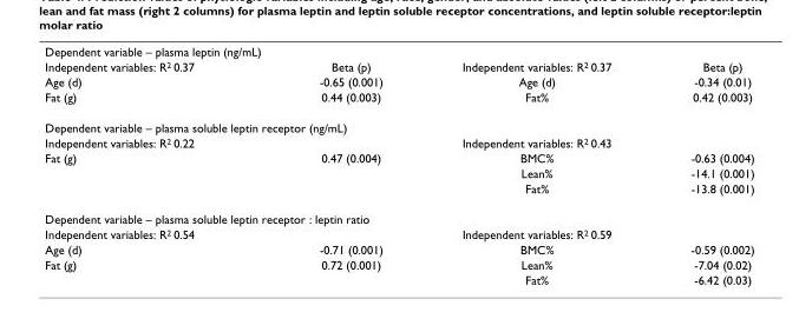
<table><tbody><tr><td colspan="4">Dependent variable – plasma leptin (ng/mL)</td></tr><tr><td>Independent variables: R<sup>2</sup> 0.37</td><td>Beta (p)</td><td>Independent variables: R<sup>2</sup> 0.37</td><td>Beta (p)</td></tr><tr><td>Age (d)</td><td>-0.65 (0.001)</td><td>Age (d)</td><td>-0.34 (0.01)</td></tr><tr><td>Fat (g)</td><td>0.44 (0.003)</td><td>Fat%</td><td>0.42 (0.003)</td></tr><tr><td colspan="4">Dependent variable – plasma soluble leptin receptor (ng/mL)</td></tr><tr><td>Independent variables: R<sup>2</sup> 0.22</td><td></td><td>Independent variables: R<sup>2</sup> 0.43</td><td></td></tr><tr><td rowspan="3">Fat (g)</td><td>0.47 (0.004)</td><td>BMC%</td><td>-0.63 (0.004)</td></tr><tr><td></td><td>Lean%</td><td>-14.1 (0.001)</td></tr><tr><td></td><td>Fat%</td><td>-13.8 (0.001)</td></tr><tr><td colspan="4">Dependent variable – plasma soluble leptin receptor : leptin ratio</td></tr><tr><td>Independent variables: R<sup>2</sup> 0.54</td><td></td><td>Independent variables: R<sup>2</sup> 0.59</td><td></td></tr><tr><td>Age (d)</td><td>-0.71 (0.001)</td><td>BMC%</td><td>-0.59 (0.002)</td></tr><tr><td rowspan="2">Fat (g)</td><td>0.72 (0.001)</td><td>Lean%</td><td>-7.04 (0.02)</td></tr><tr><td></td><td>Fat%</td><td>-6.42 (0.03)</td></tr></tbody></table>